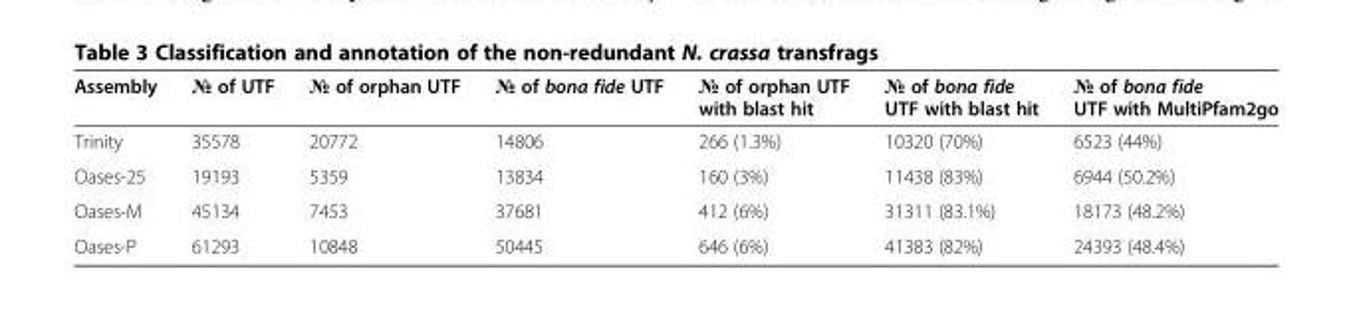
<table><thead><tr><td>Assembly</td><td>№ of UTF</td><td>№ of orphan UTF</td><td>№ of bona fide UTF</td><td>№ of orphan UTF with blast hit</td><td>№ of bona fide UTF with blast hit</td><td>№ of bona fide UTF with MultiPfam2go</td></tr></thead><tbody><tr><td>Trinity</td><td>35578</td><td>20772</td><td>14806</td><td>266 (1.3%)</td><td>10320 (70%)</td><td>6523 (44%)</td></tr><tr><td>Oases-25</td><td>19193</td><td>5359</td><td>13834</td><td>160 (3%)</td><td>11438 (83%)</td><td>6944 (50.2%)</td></tr><tr><td>Oases-M</td><td>45134</td><td>7453</td><td>37681</td><td>412 (6%)</td><td>31311 (83.1%)</td><td>18173 (48.2%)</td></tr><tr><td>Oases-P</td><td>61293</td><td>10848</td><td>50445</td><td>646 (6%)</td><td>41383 (82%)</td><td>24393 (48.4%)</td></tr></tbody></table>